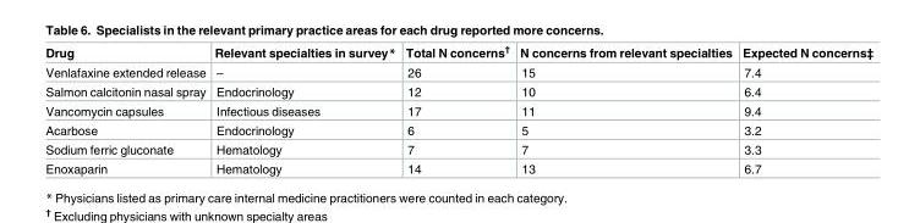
<table><thead><tr><td>Drug</td><td>Relevant specialties in survey*</td><td>Total N concerns<sup>†</sup></td><td>N concerns from relevant specialties</td><td>Expected N concerns‡</td></tr></thead><tbody><tr><td>Venlafaxine extended release</td><td>–</td><td>26</td><td>15</td><td>7.4</td></tr><tr><td>Salmon calcitonin nasal spray</td><td>Endocrinology</td><td>12</td><td>10</td><td>6.4</td></tr><tr><td>Vancomycin capsules</td><td>Infectious diseases</td><td>17</td><td>11</td><td>9.4</td></tr><tr><td>Acarbose</td><td>Endocrinology</td><td>6</td><td>5</td><td>3.2</td></tr><tr><td>Sodium ferric gluconate</td><td>Hematology</td><td>7</td><td>7</td><td>3.3</td></tr><tr><td>Enoxaparin</td><td>Hematology</td><td>14</td><td>13</td><td>6.7</td></tr></tbody></table>